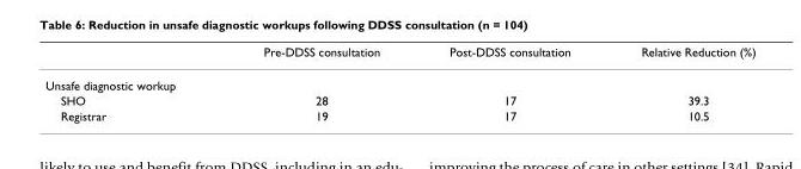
<table><thead><tr><td></td><td>Pre-DDSS consultation</td><td>Post-DDSS consultation</td><td>Relative Reduction (%)</td></tr></thead><tbody><tr><td colspan="4">Unsafe diagnostic workup</td></tr><tr><td>SHO</td><td>28</td><td>17</td><td>39.3</td></tr><tr><td>Registrar</td><td>19</td><td>17</td><td>10.5</td></tr></tbody></table>